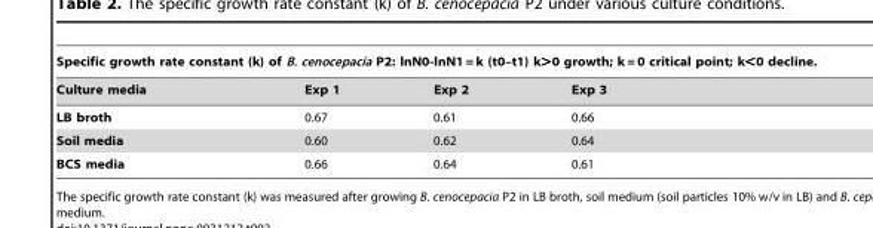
<table><thead><tr><td colspan="4">Specific growth rate constant (k) of B. cenocepacia P2: lnN0-lnN1 = k (t0–t1) k&gt;0 growth; k = 0 critical point; k&lt;0 decline.</td></tr><tr><td>Culture media</td><td>Exp 1</td><td>Exp 2</td><td>Exp 3</td></tr></thead><tbody><tr><td>LB broth</td><td>0.67</td><td>0.61</td><td>0.66</td></tr><tr><td>Soil media</td><td>0.60</td><td>0.62</td><td>0.64</td></tr><tr><td>BCS media</td><td>0.66</td><td>0.64</td><td>0.61</td></tr></tbody></table>